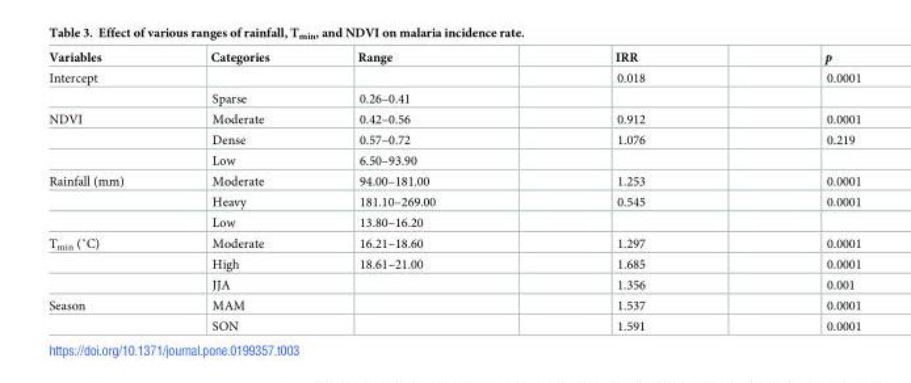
<table><thead><tr><td>Variables</td><td>Categories</td><td>Range</td><td>IRR</td><td>p</td></tr></thead><tbody><tr><td rowspan="2">Intercept</td><td></td><td></td><td>0.018</td><td>0.0001</td></tr><tr><td>Sparse</td><td>0.26–0.41</td><td></td><td></td></tr><tr><td rowspan="3">NDVI</td><td>Moderate</td><td>0.42–0.56</td><td>0.912</td><td>0.0001</td></tr><tr><td>Dense</td><td>0.57–0.72</td><td>1.076</td><td>0.219</td></tr><tr><td>Low</td><td>6.50–93.90</td><td></td><td></td></tr><tr><td rowspan="3">Rainfall (mm)</td><td>Moderate</td><td>94.00–181.00</td><td>1.253</td><td>0.0001</td></tr><tr><td>Heavy</td><td>181.10–269.00</td><td>0.545</td><td>0.0001</td></tr><tr><td>Low</td><td>13.80–16.20</td><td></td><td></td></tr><tr><td rowspan="3">Tmin (˚C)</td><td>Moderate</td><td>16.21–18.60</td><td>1.297</td><td>0.0001</td></tr><tr><td>High</td><td>18.61–21.00</td><td>1.685</td><td>0.0001</td></tr><tr><td>JJA</td><td></td><td>1.356</td><td>0.001</td></tr><tr><td rowspan="2">Season</td><td>MAM</td><td></td><td>1.537</td><td>0.0001</td></tr><tr><td>SON</td><td></td><td>1.591</td><td>0.0001</td></tr></tbody></table>